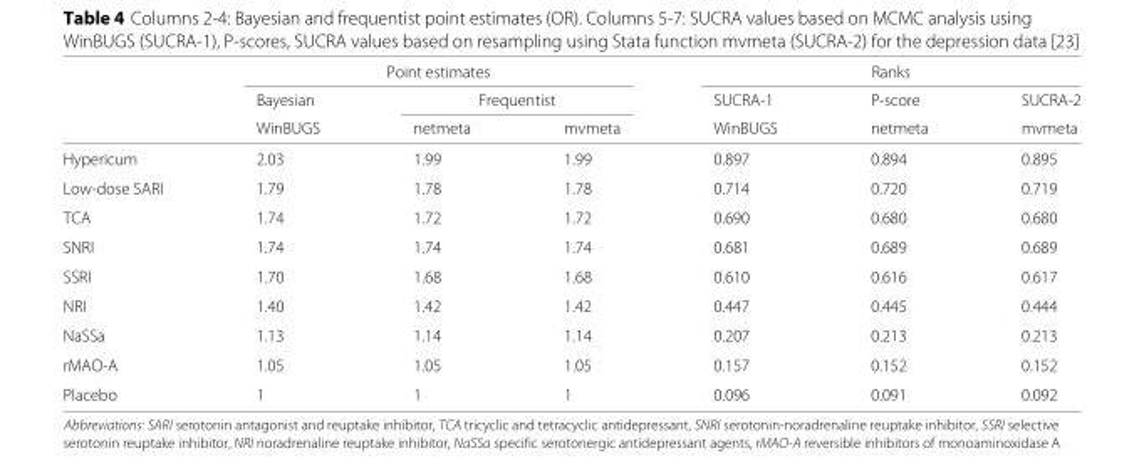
<table><thead><tr><td rowspan="3"></td><td colspan="3">Point estimates</td><td colspan="3">Ranks</td></tr><tr><td rowspan="2">Bayesian WinBUGS</td><td colspan="2">Frequentist</td><td rowspan="2">SUCRA-1 WinBUGS</td><td rowspan="2">P-score netmeta</td><td rowspan="2">SUCRA-2 mvmeta</td></tr><tr><td>netmeta</td><td>mvmeta</td></tr></thead><tbody><tr><td>Hypericum</td><td>2.03</td><td>1.99</td><td>1.99</td><td>0.897</td><td>0.894</td><td>0.895</td></tr><tr><td>Low-dose SARI</td><td>1.79</td><td>1.78</td><td>1.78</td><td>0.714</td><td>0.720</td><td>0.719</td></tr><tr><td>TCA</td><td>1.74</td><td>1.72</td><td>1.72</td><td>0.690</td><td>0.680</td><td>0.680</td></tr><tr><td>SNRI</td><td>1.74</td><td>1.74</td><td>1.74</td><td>0.681</td><td>0.689</td><td>0.689</td></tr><tr><td>SSRI</td><td>1.70</td><td>1.68</td><td>1.68</td><td>0.610</td><td>0.616</td><td>0.617</td></tr><tr><td>NRI</td><td>1.40</td><td>1.42</td><td>1.42</td><td>0.447</td><td>0.445</td><td>0.444</td></tr><tr><td>NaSSa</td><td>1.13</td><td>1.14</td><td>1.14</td><td>0.207</td><td>0.213</td><td>0.213</td></tr><tr><td>rMAO-A</td><td>1.05</td><td>1.05</td><td>1.05</td><td>0.157</td><td>0.152</td><td>0.152</td></tr><tr><td>Placebo</td><td>1</td><td>1</td><td>1</td><td>0.096</td><td>0.091</td><td>0.092</td></tr></tbody></table>